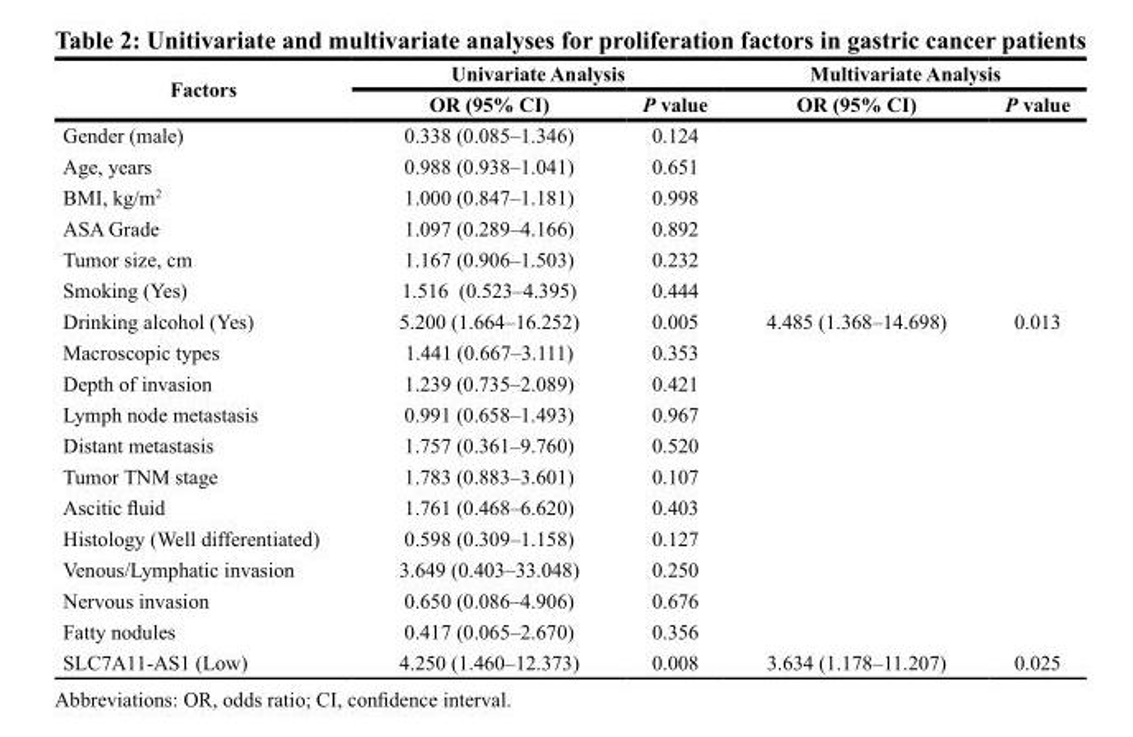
<table><thead><tr><td rowspan="2">Factors</td><td colspan="2">Univariate Analysis</td><td colspan="2">Multivariate Analysis</td></tr><tr><td>OR (95% CI)</td><td>P value</td><td>OR (95% CI)</td><td>P value</td></tr></thead><tbody><tr><td>Gender (male)</td><td>0.338 (0.085–1.346)</td><td>0.124</td><td></td><td></td></tr><tr><td>Age, years</td><td>0.988 (0.938–1.041)</td><td>0.651</td><td></td><td></td></tr><tr><td>BMI, kg/m<sup>2</sup></td><td>1.000 (0.847–1.181)</td><td>0.998</td><td></td><td></td></tr><tr><td>ASA Grade</td><td>1.097 (0.289–4.166)</td><td>0.892</td><td></td><td></td></tr><tr><td>Tumor size, cm</td><td>1.167 (0.906–1.503)</td><td>0.232</td><td></td><td></td></tr><tr><td>Smoking (Yes)</td><td>1.516 (0.523–4.395)</td><td>0.444</td><td></td><td></td></tr><tr><td>Drinking alcohol (Yes)</td><td>5.200 (1.664–16.252)</td><td>0.005</td><td>4.485 (1.368–14.698)</td><td>0.013</td></tr><tr><td>Macroscopic types</td><td>1.441 (0.667–3.111)</td><td>0.353</td><td></td><td></td></tr><tr><td>Depth of invasion</td><td>1.239 (0.735–2.089)</td><td>0.421</td><td></td><td></td></tr><tr><td>Lymph node metastasis</td><td>0.991 (0.658–1.493)</td><td>0.967</td><td></td><td></td></tr><tr><td>Distant metastasis</td><td>1.757 (0.361–9.760)</td><td>0.520</td><td></td><td></td></tr><tr><td>Tumor TNM stage</td><td>1.783 (0.883–3.601)</td><td>0.107</td><td></td><td></td></tr><tr><td>Ascitic fluid</td><td>1.761 (0.468–6.620)</td><td>0.403</td><td></td><td></td></tr><tr><td>Histology (Well differentiated)</td><td>0.598 (0.309–1.158)</td><td>0.127</td><td></td><td></td></tr><tr><td>Venous/Lymphatic invasion</td><td>3.649 (0.403–33.048)</td><td>0.250</td><td></td><td></td></tr><tr><td>Nervous invasion</td><td>0.650 (0.086–4.906)</td><td>0.676</td><td></td><td></td></tr><tr><td>Fatty nodules</td><td>0.417 (0.065–2.670)</td><td>0.356</td><td></td><td></td></tr><tr><td>SLC7A11-AS1 (Low)</td><td>4.250 (1.460–12.373)</td><td>0.008</td><td>3.634 (1.178–11.207)</td><td>0.025</td></tr></tbody></table>